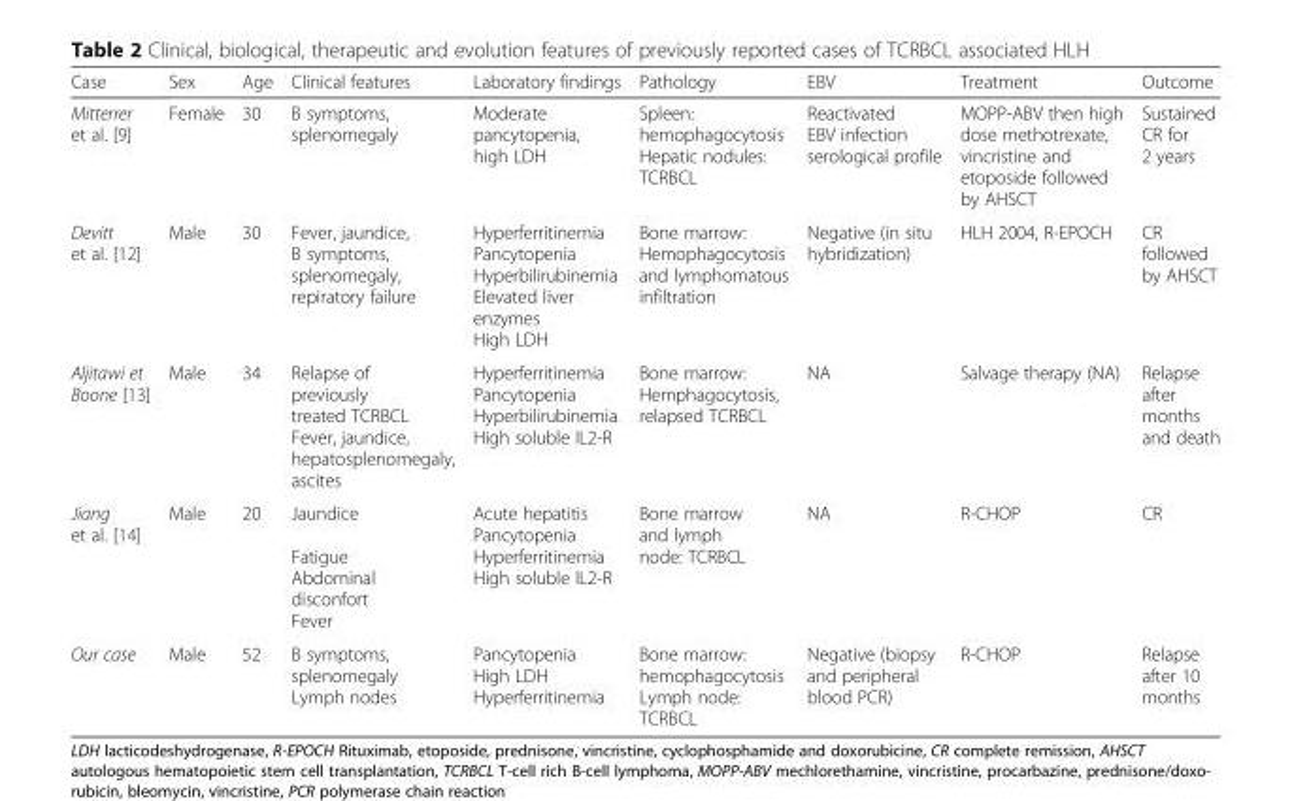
<table><thead><tr><td>Case</td><td>Sex</td><td>Age</td><td>Clinical features</td><td>Laboratory findings</td><td>Pathology</td><td>EBV</td><td>Treatment</td><td>Outcome</td></tr></thead><tbody><tr><td>Mitterrer et al. [9]</td><td>Female</td><td>30</td><td>B symptoms, splenomegaly</td><td>Moderate pancytopenia, high LDH</td><td>Spleen: hemophagocytosis Hepatic nodules: TCRBCL</td><td>Reactivated EBV infection serological profile</td><td>MOPP-ABV then high dose methotrexate, vincristine and etoposide followed by AHSCT</td><td>Sustained CR for 2 years</td></tr><tr><td>Devitt et al. [12]</td><td>Male</td><td>30</td><td>Fever, jaundice, B symptoms, splenomegaly, repiratory failure</td><td>Hyperferritinemia Pancytopenia Hyperbilirubinemia Elevated liver enzymes High LDH</td><td>Bone marrow: Hemophagocytosis and lymphomatous infiltration</td><td>Negative (in situ hybridization)</td><td>HLH 2004, R-EPOCH</td><td>CR followed by AHSCT</td></tr><tr><td>Aljitawi et Boone [13]</td><td>Male</td><td>34</td><td>Relapse of previously treated TCRBCL Fever, jaundice, hepatosplenomegaly, ascites</td><td>Hyperferritinemia Pancytopenia Hyperbilirubinemia High soluble IL2-R</td><td>Bone marrow: Hemphagocytosis, relapsed TCRBCL</td><td>NA</td><td>Salvage therapy (NA)</td><td>Relapse after months and death</td></tr><tr><td>Jiang et al. [14]</td><td>Male</td><td>20</td><td>Jaundice Fatigue Abdominal disconfort Fever</td><td>Acute hepatitis Pancytopenia Hyperferritinemia High soluble IL2-R</td><td>Bone marrow and lymph node: TCRBCL</td><td>NA</td><td>R-CHOP</td><td>CR</td></tr><tr><td>Our case</td><td>Male</td><td>52</td><td>B symptoms, splenomegaly Lymph nodes</td><td>Pancytopenia High LDH Hyperferritinemia</td><td>Bone marrow: hemophagocytosis Lymph node: TCRBCL</td><td>Negative (biopsy and peripheral blood PCR)</td><td>R-CHOP</td><td>Relapse after 10 months</td></tr></tbody></table>